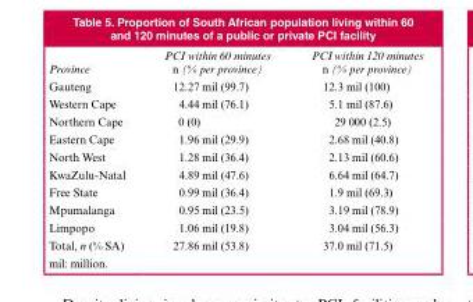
<table><thead><tr><td>Province</td><td>PCI within 60 minutes n (% per province)</td><td>PCI within 120 minutes n (% per province)</td></tr></thead><tbody><tr><td>Gauteng</td><td>12.27 mil (99.7)</td><td>12.3 mil (100)</td></tr><tr><td>Western Cape</td><td>4.44 mil (76.1)</td><td>5.1 mil (87.6)</td></tr><tr><td>Northern Cape</td><td>0 (0)</td><td>29 000 (2.5)</td></tr><tr><td>Eastern Cape</td><td>1.96 mil (29.9)</td><td>2.68 mil (40.8)</td></tr><tr><td>North West</td><td>1.28 mil (36.4)</td><td>2.13 mil (60.6)</td></tr><tr><td>KwaZulu-Natal</td><td>4.89 mil (47.6)</td><td>6.64 mil (64.7)</td></tr><tr><td>Free State</td><td>0.99 mil (36.4)</td><td>1.9 mil (69.3)</td></tr><tr><td>Mpumalanga</td><td>0.95 mil (23.5)</td><td>3.19 mil (78.9)</td></tr><tr><td>Limpopo</td><td>1.06 mil (19.8)</td><td>3.04 mil (56.3)</td></tr><tr><td>Total, n (% SA)</td><td>27.86 mil (53.8)</td><td>37.0 mil (71.5)</td></tr></tbody></table>